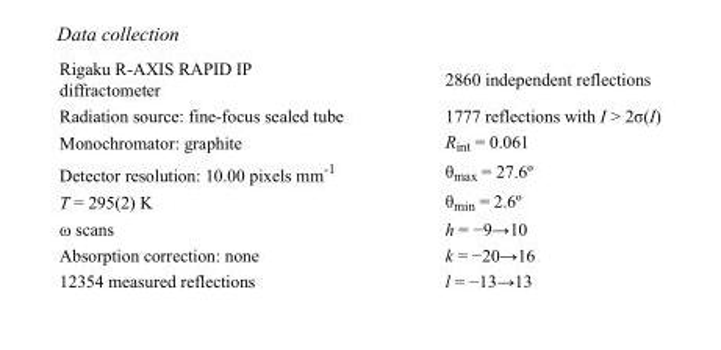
<table><tbody><tr><td>Rigaku R-AXIS RAPID IP diffractometer</td><td>2860 independent reflections</td></tr><tr><td>Radiation source: fine-focus sealed tube</td><td>1777 reflections with I &gt; 2σ(I)</td></tr><tr><td>Monochromator: graphite</td><td>R<sub>int</sub> = 0.061</td></tr><tr><td>Detector resolution: 10.00 pixels mm<sup>-1</sup></td><td>θ<sub>max</sub> = 27.6º</td></tr><tr><td>T = 295(2) K</td><td>θ<sub>min</sub> = 2.6º</td></tr><tr><td>ω scans</td><td>h = −9→10</td></tr><tr><td>Absorption correction: none</td><td>k = −20→16</td></tr><tr><td>12354 measured reflections</td><td>l = −13→13</td></tr></tbody></table>